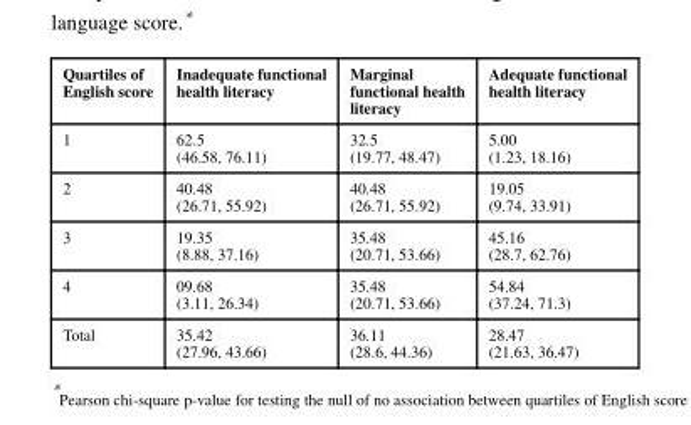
<table><thead><tr><td>Quartiles of English score</td><td>Inadequate functional health literacy</td><td>Marginal functional health literacy</td><td>Adequate functional health literacy</td></tr></thead><tbody><tr><td>1</td><td>62.5 (46.58, 76.11)</td><td>32.5 (19.77, 48.47)</td><td>5.00 (1.23, 18.16)</td></tr><tr><td>2</td><td>40.48 (26.71, 55.92)</td><td>40.48 (26.71, 55.92)</td><td>19.05 (9.74, 33.91)</td></tr><tr><td>3</td><td>19.35 (8.88, 37.16)</td><td>35.48 (20.71, 53.66)</td><td>45.16 (28.7, 62.76)</td></tr><tr><td>4</td><td>09.68 (3.11, 26.34)</td><td>35.48 (20.71, 53.66)</td><td>54.84 (37.24, 71.3)</td></tr><tr><td>Total</td><td>35.42 (27.96, 43.66)</td><td>36.11 (28.6, 44.36)</td><td>28.47 (21.63, 36.47)</td></tr></tbody></table>